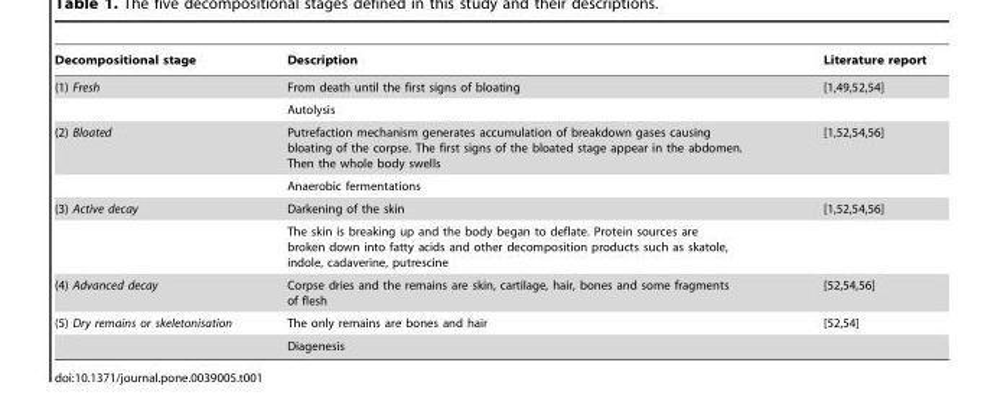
<table><thead><tr><td>Decompositional stage</td><td>Description</td><td>Literature report</td></tr></thead><tbody><tr><td rowspan="2">(1) Fresh</td><td>From death until the first signs of bloating</td><td>[1,49,52,54]</td></tr><tr><td>Autolysis</td><td></td></tr><tr><td rowspan="2">(2) Bloated</td><td>Putrefaction mechanism generates accumulation of breakdown gases causing bloating of the corpse. The first signs of the bloated stage appear in the abdomen. Then the whole body swells</td><td>[1,52,54,56]</td></tr><tr><td>Anaerobic fermentations</td><td></td></tr><tr><td rowspan="2">(3) Active decay</td><td>Darkening of the skin</td><td>[1,52,54,56]</td></tr><tr><td>The skin is breaking up and the body began to deflate. Protein sources are broken down into fatty acids and other decomposition products such as skatole, indole, cadaverine, putrescine</td><td></td></tr><tr><td>(4) Advanced decay</td><td>Corpse dries and the remains are skin, cartilage, hair, bones and some fragments of flesh</td><td>[52,54,56]</td></tr><tr><td rowspan="2">(5) Dry remains or skeletonisation</td><td>The only remains are bones and hair</td><td>[52,54]</td></tr><tr><td>Diagenesis</td><td></td></tr></tbody></table>